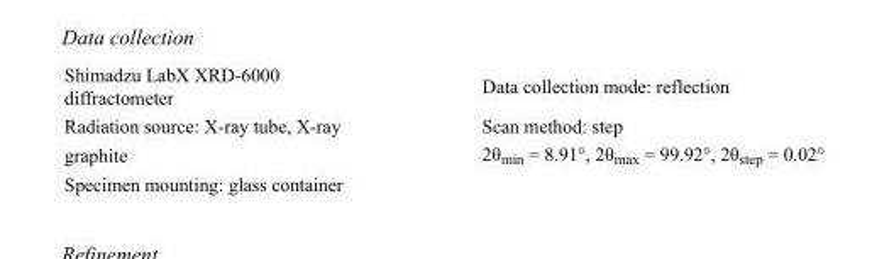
<table><tbody><tr><td>Shimadzu LabX XRD-6000 diffractometer</td><td>Data collection mode: reflection</td></tr><tr><td>Radiation source: X-ray tube, X-ray</td><td>Scan method: step</td></tr><tr><td>graphite</td><td>2θ<sub>min</sub> = 8.91°, 2θ<sub>max</sub> = 99.92°, 2θ<sub>step</sub> = 0.02°</td></tr><tr><td>Specimen mounting: glass container</td><td></td></tr></tbody></table>